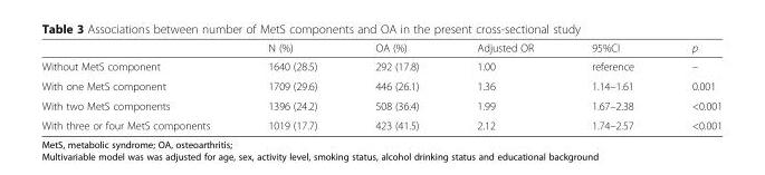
<table><thead><tr><td></td><td>N (%)</td><td>OA (%)</td><td>Adjusted OR</td><td>95%CI</td><td>p</td></tr></thead><tbody><tr><td>Without MetS component</td><td>1640 (28.5)</td><td>292 (17.8)</td><td>1.00</td><td>reference</td><td>–</td></tr><tr><td>With one MetS component</td><td>1709 (29.6)</td><td>446 (26.1)</td><td>1.36</td><td>1.14–1.61</td><td>0.001</td></tr><tr><td>With two MetS components</td><td>1396 (24.2)</td><td>508 (36.4)</td><td>1.99</td><td>1.67–2.38</td><td>&lt;0.001</td></tr><tr><td>With three or four MetS components</td><td>1019 (17.7)</td><td>423 (41.5)</td><td>2.12</td><td>1.74–2.57</td><td>&lt;0.001</td></tr></tbody></table>